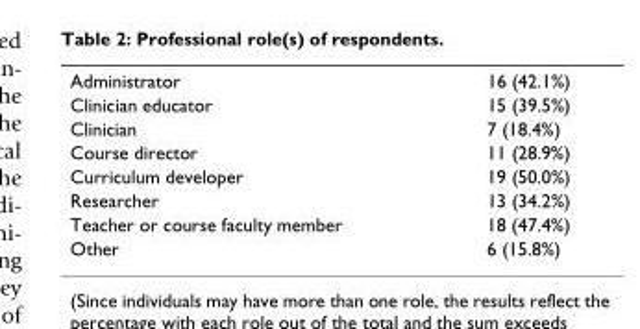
<table><tbody><tr><td>Administrator</td><td>16 (42.1%)</td></tr><tr><td>Clinician educator</td><td>15 (39.5%)</td></tr><tr><td>Clinician</td><td>7 (18.4%)</td></tr><tr><td>Course director</td><td>11 (28.9%)</td></tr><tr><td>Curriculum developer</td><td>19 (50.0%)</td></tr><tr><td>Researcher</td><td>13 (34.2%)</td></tr><tr><td>Teacher or course faculty member</td><td>18 (47.4%)</td></tr><tr><td>Other</td><td>6 (15.8%)</td></tr></tbody></table>